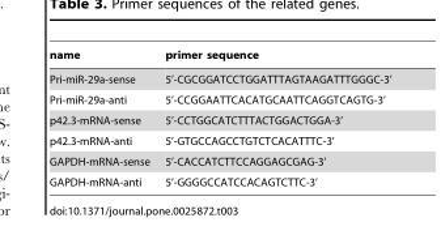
<table><thead><tr><td>name</td><td>primer sequence</td></tr></thead><tbody><tr><td>Pri-miR-29a-sense</td><td>5’-CGCGGATCCTGGATTTAGTAAGATTTGGGC-3’</td></tr><tr><td>Pri-miR-29a-anti</td><td>5’-CCGGAATTCACATGCAATTCAGGTCAGTG-3’</td></tr><tr><td>p42.3-mRNA-sense</td><td>5’-CCTGGCATCTTTACTGGACTGGA-3’</td></tr><tr><td>p42.3-mRNA-anti</td><td>5’-GTGCCAGCCTGTCTCACATTTC-3’</td></tr><tr><td>GAPDH-mRNA-sense</td><td>5’-CACCATCTTCCAGGAGCGAG-3’</td></tr><tr><td>GAPDH-mRNA-anti</td><td>5’-GGGGCCATCCACAGTCTTC-3’</td></tr></tbody></table>